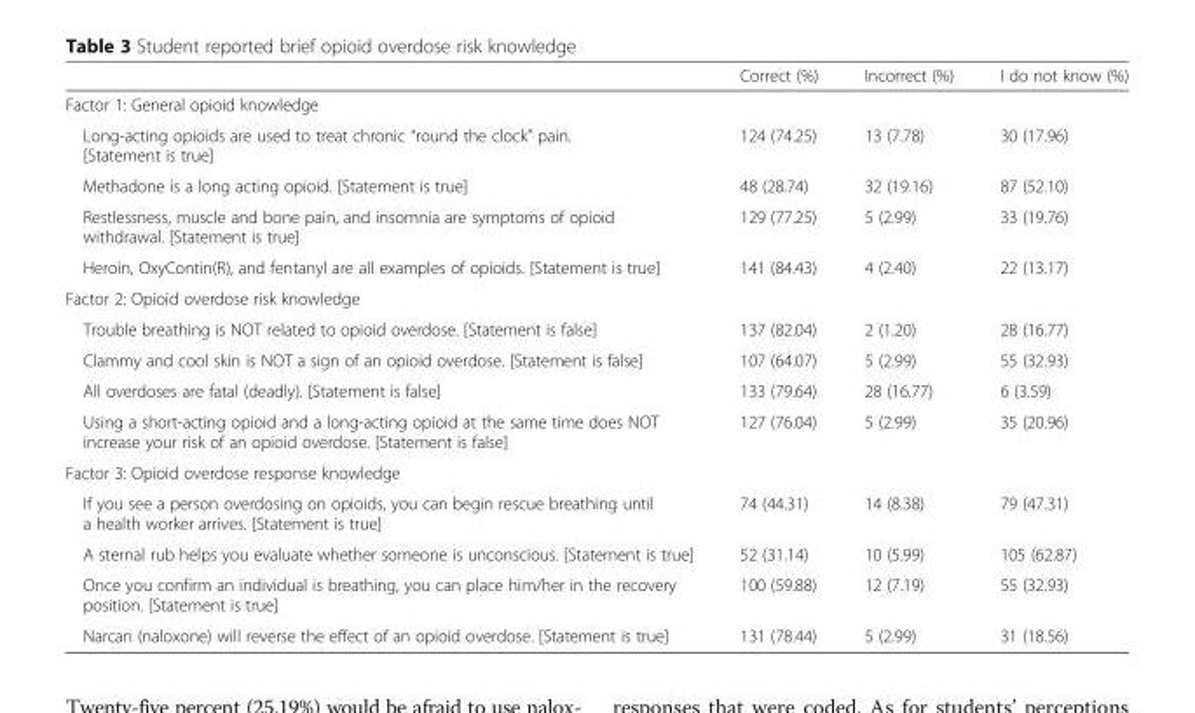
<table><thead><tr><td></td><td>Correct (%)</td><td>Incorrect (%)</td><td>I do not know (%)</td></tr></thead><tbody><tr><td colspan="4">Factor 1: General opioid knowledge</td></tr><tr><td>Long-acting opioids are used to treat chronic “round the clock” pain. [Statement is true]</td><td>124 (74.25)</td><td>13 (7.78)</td><td>30 (17.96)</td></tr><tr><td>Methadone is a long acting opioid. [Statement is true]</td><td>48 (28.74)</td><td>32 (19.16)</td><td>87 (52.10)</td></tr><tr><td>Restlessness, muscle and bone pain, and insomnia are symptoms of opioid withdrawal. [Statement is true]</td><td>129 (77.25)</td><td>5 (2.99)</td><td>33 (19.76)</td></tr><tr><td>Heroin, OxyContin(R), and fentanyl are all examples of opioids. [Statement is true]</td><td>141 (84.43)</td><td>4 (2.40)</td><td>22 (13.17)</td></tr><tr><td colspan="4">Factor 2: Opioid overdose risk knowledge</td></tr><tr><td>Trouble breathing is NOT related to opioid overdose. [Statement is false]</td><td>137 (82.04)</td><td>2 (1.20)</td><td>28 (16.77)</td></tr><tr><td>Clammy and cool skin is NOT a sign of an opioid overdose. [Statement is false]</td><td>107 (64.07)</td><td>5 (2.99)</td><td>55 (32.93)</td></tr><tr><td>All overdoses are fatal (deadly). [Statement is false]</td><td>133 (79.64)</td><td>28 (16.77)</td><td>6 (3.59)</td></tr><tr><td>Using a short-acting opioid and a long-acting opioid at the same time does NOT increase your risk of an opioid overdose. [Statement is false]</td><td>127 (76.04)</td><td>5 (2.99)</td><td>35 (20.96)</td></tr><tr><td colspan="4">Factor 3: Opioid overdose response knowledge</td></tr><tr><td>If you see a person overdosing on opioids, you can begin rescue breathing until a health worker arrives. [Statement is true]</td><td>74 (44.31)</td><td>14 (8.38)</td><td>79 (47.31)</td></tr><tr><td>A sternal rub helps you evaluate whether someone is unconscious. [Statement is true]</td><td>52 (31.14)</td><td>10 (5.99)</td><td>105 (62.87)</td></tr><tr><td>Once you confirm an individual is breathing, you can place him/her in the recovery position. [Statement is true]</td><td>100 (59.88)</td><td>12 (7.19)</td><td>55 (32.93)</td></tr><tr><td>Narcan (naloxone) will reverse the effect of an opioid overdose. [Statement is true]</td><td>131 (78.44)</td><td>5 (2.99)</td><td>31 (18.56)</td></tr></tbody></table>